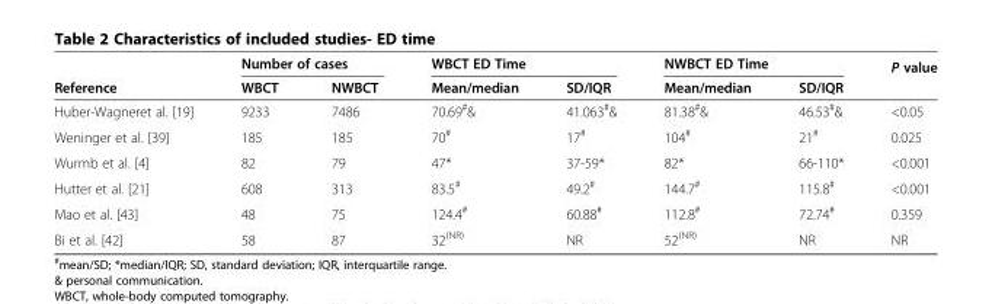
<table><thead><tr><td rowspan="2">Reference</td><td colspan="2">Number of cases</td><td colspan="2">WBCT ED Time</td><td colspan="2">NWBCT ED Time</td><td rowspan="2">P value</td></tr><tr><td>WBCT</td><td>NWBCT</td><td>Mean/median</td><td>SD/IQR</td><td>Mean/median</td><td>SD/IQR</td></tr></thead><tbody><tr><td>Huber-Wagneret al. [19]</td><td>9233</td><td>7486</td><td>70.69<sup>#</sup>&amp;</td><td>41.063<sup>#</sup>&amp;</td><td>81.38<sup>#</sup>&amp;</td><td>46.53<sup>#</sup>&amp;</td><td>&lt;0.05</td></tr><tr><td>Weninger et al. [39]</td><td>185</td><td>185</td><td>70<sup>#</sup></td><td>17<sup>#</sup></td><td>104<sup>#</sup></td><td>21<sup>#</sup></td><td>0.025</td></tr><tr><td>Wurmb et al. [4]</td><td>82</td><td>79</td><td>47*</td><td>37-59*</td><td>82*</td><td>66-110*</td><td>&lt;0.001</td></tr><tr><td>Hutter et al. [21]</td><td>608</td><td>313</td><td>83.5<sup>#</sup></td><td>49.2<sup>#</sup></td><td>144.7<sup>#</sup></td><td>115.8<sup>#</sup></td><td>&lt;0.001</td></tr><tr><td>Mao et al. [43]</td><td>48</td><td>75</td><td>124.4<sup>#</sup></td><td>60.88<sup>#</sup></td><td>112.8<sup>#</sup></td><td>72.74<sup>#</sup></td><td>0.359</td></tr><tr><td>Bi et al. [42]</td><td>58</td><td>87</td><td>32<sup>(NR)</sup></td><td>NR</td><td>52<sup>(NR)</sup></td><td>NR</td><td>NR</td></tr></tbody></table>